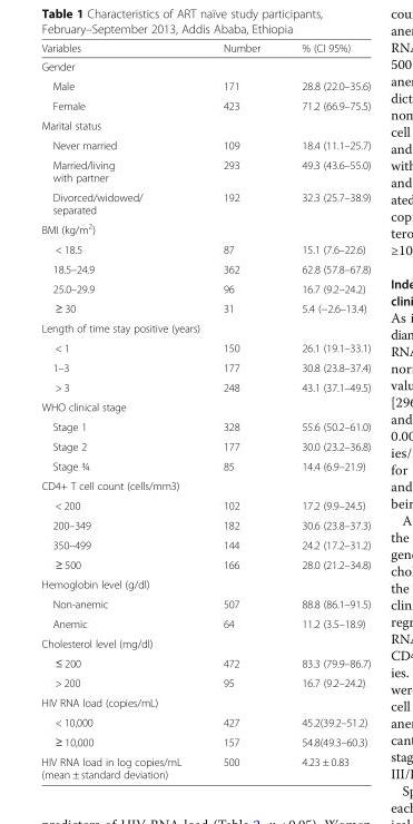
<table><thead><tr><td>Variables</td><td>Number</td><td>% (CI 95%)</td></tr></thead><tbody><tr><td colspan="3">Gender</td></tr><tr><td>Male</td><td>171</td><td>28.8 (22.0–35.6)</td></tr><tr><td>Female</td><td>423</td><td>71.2 (66.9–75.5)</td></tr><tr><td colspan="3">Marital status</td></tr><tr><td>Never married</td><td>109</td><td>18.4 (11.1–25.7)</td></tr><tr><td>Married/living with partner</td><td>293</td><td>49.3 (43.6–55.0)</td></tr><tr><td>Divorced/widowed/ separated</td><td>192</td><td>32.3 (25.7–38.9)</td></tr><tr><td colspan="3">BMI (kg/m<sup>2</sup>)</td></tr><tr><td>&lt; 18.5</td><td>87</td><td>15.1 (7.6–22.6)</td></tr><tr><td>18.5–24.9</td><td>362</td><td>62.8 (57.8–67.8)</td></tr><tr><td>25.0–29.9</td><td>96</td><td>16.7 (9.2–24.2)</td></tr><tr><td>≥ 30</td><td>31</td><td>5.4 (−2.6–13.4)</td></tr><tr><td colspan="3">Length of time stay positive (years)</td></tr><tr><td>&lt; 1</td><td>150</td><td>26.1 (19.1–33.1)</td></tr><tr><td>1–3</td><td>177</td><td>30.8 (23.8–37.4)</td></tr><tr><td>&gt; 3</td><td>248</td><td>43.1 (37.1–49.5)</td></tr><tr><td colspan="3">WHO clinical stage</td></tr><tr><td>Stage 1</td><td>328</td><td>55.6 (50.2–61.0)</td></tr><tr><td>Stage 2</td><td>177</td><td>30.0 (23.2–36.8)</td></tr><tr><td>Stage ¾</td><td>85</td><td>14.4 (6.9–21.9)</td></tr><tr><td colspan="3">CD4+ T cell count (cells/mm3)</td></tr><tr><td>&lt; 200</td><td>102</td><td>17.2 (9.9–24.5)</td></tr><tr><td>200–349</td><td>182</td><td>30.6 (23.8–37.3)</td></tr><tr><td>350–499</td><td>144</td><td>24.2 (17.2–31.2)</td></tr><tr><td>≥ 500</td><td>166</td><td>28.0 (21.2–34.8)</td></tr><tr><td colspan="3">Hemoglobin level (g/dl)</td></tr><tr><td>Non-anemic</td><td>507</td><td>88.8 (86.1–91.5)</td></tr><tr><td>Anemic</td><td>64</td><td>11.2 (3.5–18.9)</td></tr><tr><td colspan="3">Cholesterol level (mg/dl)</td></tr><tr><td>≤ 200</td><td>472</td><td>83.3 (79.9–86.7)</td></tr><tr><td>&gt; 200</td><td>95</td><td>16.7 (9.2–24.2)</td></tr><tr><td colspan="3">HIV RNA load (copies/mL)</td></tr><tr><td>&lt; 10,000</td><td>427</td><td>45.2(39.2–51.2)</td></tr><tr><td>≥ 10,000</td><td>157</td><td>54.8(49.3–60.3)</td></tr><tr><td>HIV RNA load in log copies/mL (mean ± standard deviation)</td><td>500</td><td>4.23 ± 0.83</td></tr></tbody></table>